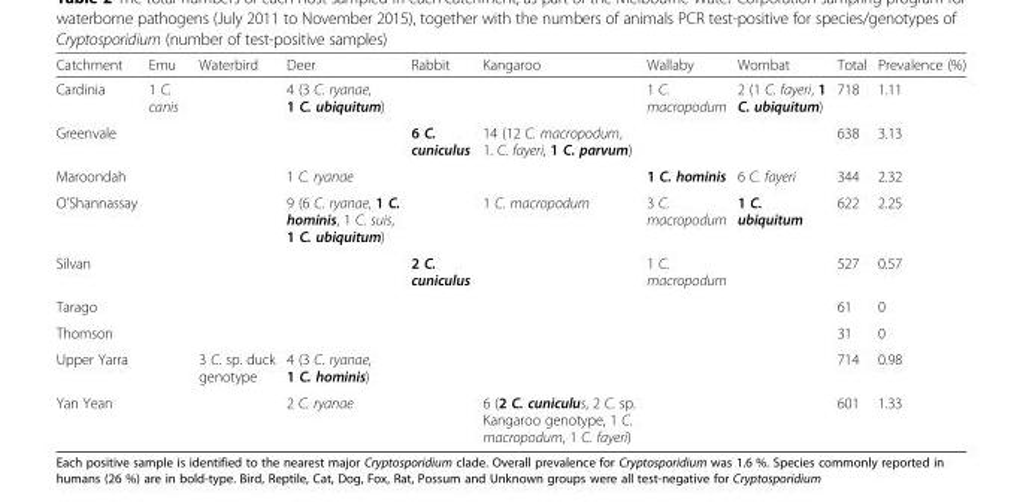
<table><thead><tr><td>Catchment</td><td>Emu</td><td>Waterbird</td><td>Deer</td><td>Rabbit</td><td>Kangaroo</td><td>Wallaby</td><td>Wombat</td><td>Total</td><td>Prevalence (%)</td></tr></thead><tbody><tr><td>Cardinia</td><td>1 C. canis</td><td></td><td>4 (3 C. ryanae, 1 C. ubiquitum)</td><td></td><td></td><td>1 C. macropodum</td><td>2 (1 C. fayeri, 1 C. ubiquitum)</td><td>718</td><td>1.11</td></tr><tr><td>Greenvale</td><td></td><td></td><td></td><td>6 C. cuniculus</td><td>14 (12 C. macropodum, 1. C. fayeri, 1 C. parvum)</td><td></td><td></td><td>638</td><td>3.13</td></tr><tr><td>Maroondah</td><td></td><td></td><td>1 C. ryanae</td><td></td><td></td><td>1 C. hominis</td><td>6 C. fayeri</td><td>344</td><td>2.32</td></tr><tr><td>O&#x27;Shannassay</td><td></td><td></td><td>9 (6 C. ryanae, 1 C. hominis, 1 C. suis, 1 C. ubiquitum)</td><td></td><td>1 C. macropodum</td><td>3 C. macropodum</td><td>1 C. ubiquitum</td><td>622</td><td>2.25</td></tr><tr><td>Silvan</td><td></td><td></td><td></td><td>2 C. cuniculus</td><td></td><td>1 C. macropodum</td><td></td><td>527</td><td>0.57</td></tr><tr><td>Tarago</td><td></td><td></td><td></td><td></td><td></td><td></td><td></td><td>61</td><td>0</td></tr><tr><td>Thomson</td><td></td><td></td><td></td><td></td><td></td><td></td><td></td><td>31</td><td>0</td></tr><tr><td>Upper Yarra</td><td></td><td>3 C. sp. duck genotype</td><td>4 (3 C. ryanae, 1 C. hominis)</td><td></td><td></td><td></td><td></td><td>714</td><td>0.98</td></tr><tr><td>Yan Yean</td><td></td><td></td><td>2 C. ryanae</td><td></td><td>6 (2 C. cuniculus, 2 C. sp. Kangaroo genotype, 1 C. macropodum, 1 C. fayeri)</td><td></td><td></td><td>601</td><td>1.33</td></tr></tbody></table>